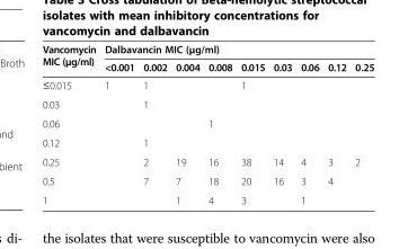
<table><thead><tr><td rowspan="2">Vancomycin MIC (μg/ml)</td><td colspan="9">Dalbavancin MIC (μg/ml)</td></tr><tr><td>&lt;0.001</td><td>0.002</td><td>0.004</td><td>0.008</td><td>0.015</td><td>0.03</td><td>0.06</td><td>0.12</td><td>0.25</td></tr></thead><tbody><tr><td>≤0.015</td><td>1</td><td>1</td><td></td><td></td><td>1</td><td></td><td></td><td></td><td></td></tr><tr><td>0.03</td><td></td><td>1</td><td></td><td></td><td></td><td></td><td></td><td></td><td></td></tr><tr><td>0.06</td><td></td><td></td><td></td><td>1</td><td></td><td></td><td></td><td></td><td></td></tr><tr><td>0.12</td><td></td><td>1</td><td></td><td></td><td></td><td></td><td></td><td></td><td></td></tr><tr><td>0.25</td><td></td><td>2</td><td>19</td><td>16</td><td>38</td><td>14</td><td>4</td><td>3</td><td>2</td></tr><tr><td>0.5</td><td></td><td>7</td><td>7</td><td>18</td><td>20</td><td>16</td><td>3</td><td>4</td><td></td></tr><tr><td>1</td><td></td><td></td><td>1</td><td>4</td><td>3</td><td></td><td>1</td><td></td><td></td></tr></tbody></table>